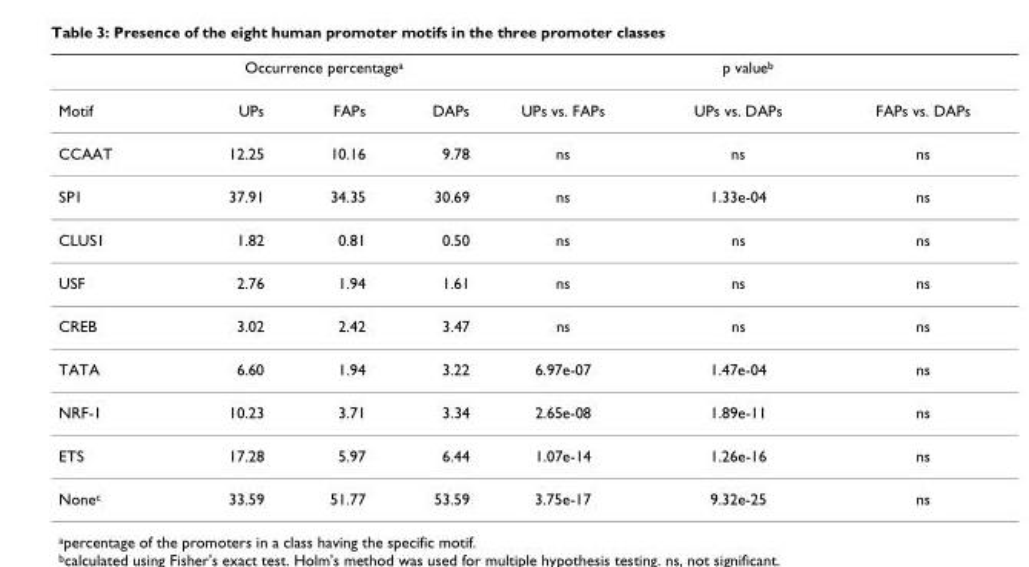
<table><thead><tr><td rowspan="2">Motif</td><td colspan="3">Occurrence percentagea</td><td colspan="3">p valueb</td></tr><tr><td>UPs</td><td>FAPs</td><td>DAPs</td><td>UPs vs. FAPs</td><td>UPs vs. DAPs</td><td>FAPs vs. DAPs</td></tr></thead><tbody><tr><td>CCAAT</td><td>12.25</td><td>10.16</td><td>9.78</td><td>ns</td><td>ns</td><td>ns</td></tr><tr><td>SP1</td><td>37.91</td><td>34.35</td><td>30.69</td><td>ns</td><td>1.33e-04</td><td>ns</td></tr><tr><td>CLUS1</td><td>1.82</td><td>0.81</td><td>0.50</td><td>ns</td><td>ns</td><td>ns</td></tr><tr><td>USF</td><td>2.76</td><td>1.94</td><td>1.61</td><td>ns</td><td>ns</td><td>ns</td></tr><tr><td>CREB</td><td>3.02</td><td>2.42</td><td>3.47</td><td>ns</td><td>ns</td><td>ns</td></tr><tr><td>TATA</td><td>6.60</td><td>1.94</td><td>3.22</td><td>6.97e-07</td><td>1.47e-04</td><td>ns</td></tr><tr><td>NRF-1</td><td>10.23</td><td>3.71</td><td>3.34</td><td>2.65e-08</td><td>1.89e-11</td><td>ns</td></tr><tr><td>ETS</td><td>17.28</td><td>5.97</td><td>6.44</td><td>1.07e-14</td><td>1.26e-16</td><td>ns</td></tr><tr><td>Nonec</td><td>33.59</td><td>51.77</td><td>53.59</td><td>3.75e-17</td><td>9.32e-25</td><td>ns</td></tr></tbody></table>